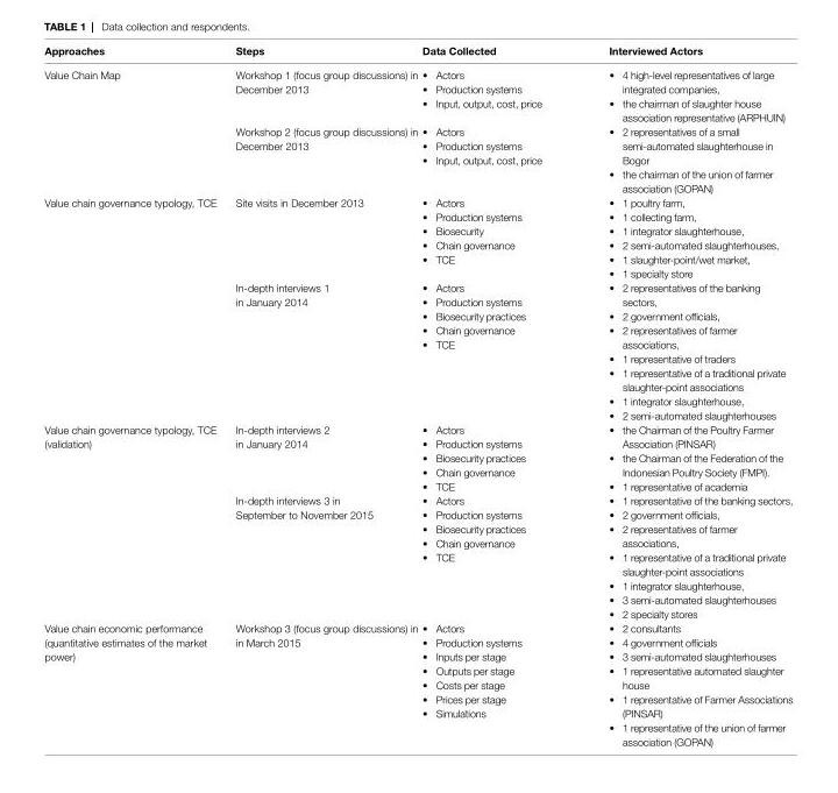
<table><thead><tr><td>approaches</td><td>steps</td><td>data collected</td><td>interviewed actors</td></tr></thead><tbody><tr><td rowspan="2">Value Chain Map</td><td>Workshop 1 (focus group discussions) in December 2013</td><td>• Actors • Production systems • Input, output, cost, price</td><td>• 4 high-level representatives of large integrated companies, • the chairman of slaughter house association representative (ARPHUIN)</td></tr><tr><td>Workshop 2 (focus group discussions) in December 2013</td><td>• Actors • Production systems • Input, output, cost, price</td><td>• 2 representatives of a small semi-automated slaughterhouse in Bogor • the chairman of the union of farmer association (GOPAN)</td></tr><tr><td rowspan="2">Value chain governance typology, TCE</td><td>Site visits in December 2013</td><td>• Actors • Production systems • Biosecurity • Chain governance • TCE</td><td>• 1 poultry farm, • 1 collecting farm, • 1 integrator slaughterhouse, • 2 semi-automated slaughterhouses, • 1 slaughter-point/wet market, • 1 specialty store</td></tr><tr><td>In-depth interviews 1 in January 2014</td><td>• Actors • Production systems • Biosecurity practices • Chain governance • TCE</td><td>• 2 representatives of the banking sectors, • 2 government officials, • 2 representatives of farmer associations, • 1 representative of traders • 1 representative of a traditional private slaughter-point associations • 1 integrator slaughterhouse, • 2 semi-automated slaughterhouses</td></tr><tr><td rowspan="2">Value chain governance typology, TCE (validation)</td><td>In-depth interviews 2 in January 2014</td><td>• Actors • Production systems • Biosecurity practices • Chain governance • TCE</td><td>• the Chairman of the Poultry Farmer Association (PINSAR) • the Chairman of the Federation of the Indonesian Poultry Society (FMPI). • 1 representative of academia</td></tr><tr><td>In-depth interviews 3 in September to November 2015</td><td>• Actors • Production systems • Biosecurity practices • Chain governance • TCE</td><td>• 1 representative of the banking sectors, • 2 government officials, • 2 representatives of farmer associations, • 1 representative of a traditional private slaughter-point associations • 1 integrator slaughterhouse, • 3 semi-automated slaughterhouses • 2 specialty stores</td></tr><tr><td>Value chain economic performance (quantitative estimates of the market power)</td><td>Workshop 3 (focus group discussions) in in March 2015</td><td>• Actors • Production systems • Inputs per stage • Outputs per stage • Costs per stage • Prices per stage • Simulations</td><td>• 2 consultants • 4 government officials • 3 semi-automated slaughterhouses • 1 representative automated slaughter house • 1 representative of Farmer Associations (PINSAR) • 1 representative of the union of farmer association (GOPAN)</td></tr></tbody></table>